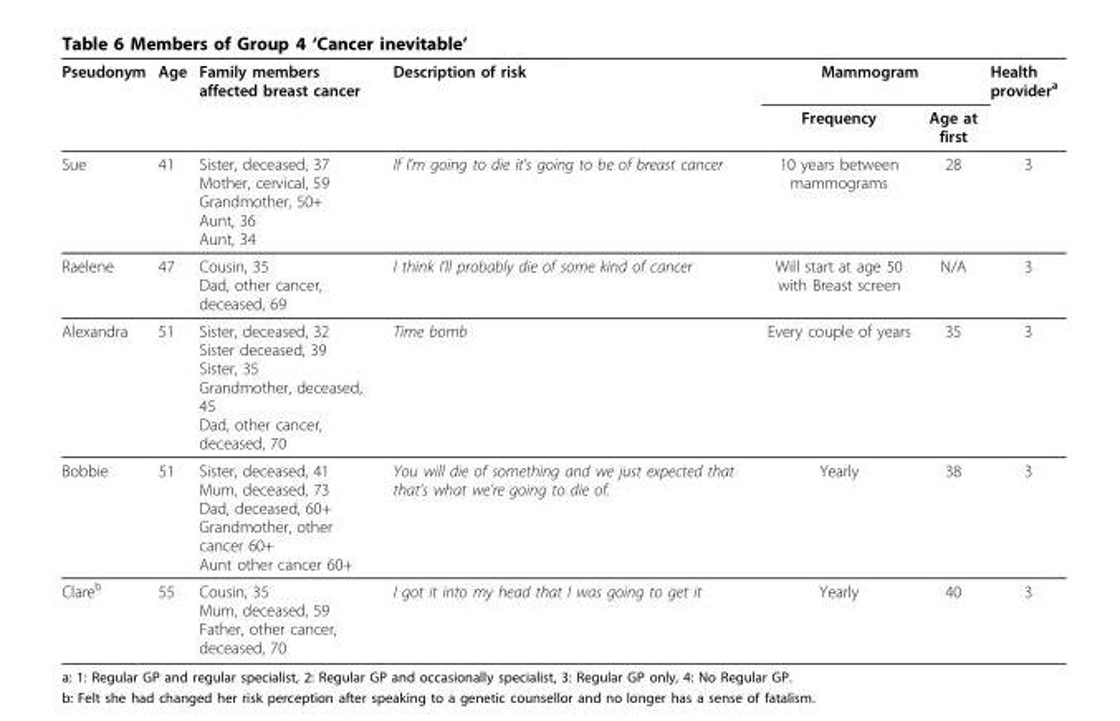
<table><thead><tr><td rowspan="2">Pseudonym</td><td rowspan="2">Age</td><td rowspan="2">Family members affected breast cancer</td><td rowspan="2">Description of risk</td><td colspan="2">Mammogram</td><td rowspan="2">Health provider<sup>a</sup></td></tr><tr><td>Frequency</td><td>Age at first</td></tr></thead><tbody><tr><td>Sue</td><td>41</td><td>Sister, deceased, 37 Mother, cervical, 59 Grandmother, 50+ Aunt, 36 Aunt, 34</td><td>If I’m going to die it’s going to be of breast cancer</td><td>10 years between mammograms</td><td>28</td><td>3</td></tr><tr><td>Raelene</td><td>47</td><td>Cousin, 35 Dad, other cancer, deceased, 69</td><td>I think I’ll probably die of some kind of cancer</td><td>Will start at age 50 with Breast screen</td><td>N/A</td><td>3</td></tr><tr><td>Alexandra</td><td>51</td><td>Sister, deceased, 32 Sister deceased, 39 Sister, 35 Grandmother, deceased, 45 Dad, other cancer, deceased, 70</td><td>Time bomb</td><td>Every couple of years</td><td>35</td><td>3</td></tr><tr><td>Bobbie</td><td>51</td><td>Sister, deceased, 41 Mum, deceased, 73 Dad, deceased, 60+ Grandmother, other cancer 60+ Aunt other cancer 60+</td><td>You will die of something and we just expected that that’s what we’re going to die of.</td><td>Yearly</td><td>38</td><td>3</td></tr><tr><td>Clare<sup>b</sup></td><td>55</td><td>Cousin, 35 Mum, deceased, 59 Father, other cancer, deceased, 70</td><td>I got it into my head that I was going to get it</td><td>Yearly</td><td>40</td><td>3</td></tr></tbody></table>